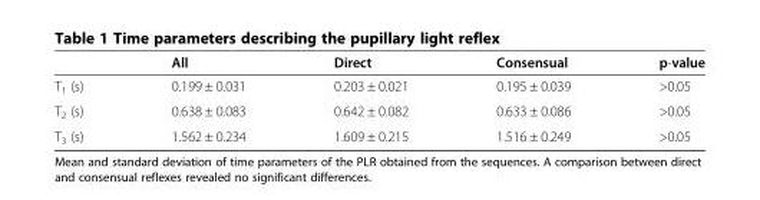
<table><thead><tr><td></td><td>All</td><td>Direct</td><td>Consensual</td><td>p-value</td></tr></thead><tbody><tr><td>T<sub>1</sub> (s)</td><td>0.199 ± 0.031</td><td>0.203 ± 0.021</td><td>0.195 ± 0.039</td><td>&gt;0.05</td></tr><tr><td>T<sub>2</sub> (s)</td><td>0.638 ± 0.083</td><td>0.642 ± 0.082</td><td>0.633 ± 0.086</td><td>&gt;0.05</td></tr><tr><td>T<sub>3</sub> (s)</td><td>1.562 ± 0.234</td><td>1.609 ± 0.215</td><td>1.516 ± 0.249</td><td>&gt;0.05</td></tr></tbody></table>